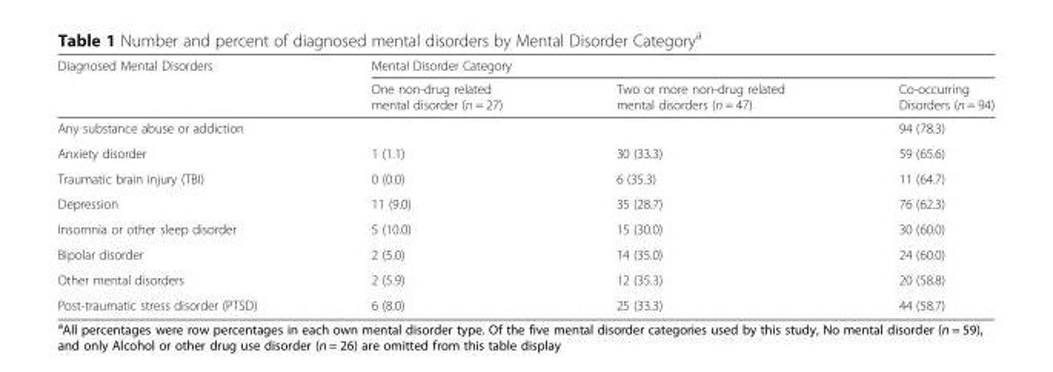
<table><thead><tr><td rowspan="2">Diagnosed Mental Disorders</td><td colspan="3">Mental Disorder Category</td></tr><tr><td>One non-drug related mental disorder (n = 27)</td><td>Two or more non-drug related mental disorders (n = 47)</td><td>Co-occurring Disorders (n = 94)</td></tr></thead><tbody><tr><td>Any substance abuse or addiction</td><td></td><td></td><td>94 (78.3)</td></tr><tr><td>Anxiety disorder</td><td>1 (1.1)</td><td>30 (33.3)</td><td>59 (65.6)</td></tr><tr><td>Traumatic brain injury (TBI)</td><td>0 (0.0)</td><td>6 (35.3)</td><td>11 (64.7)</td></tr><tr><td>Depression</td><td>11 (9.0)</td><td>35 (28.7)</td><td>76 (62.3)</td></tr><tr><td>Insomnia or other sleep disorder</td><td>5 (10.0)</td><td>15 (30.0)</td><td>30 (60.0)</td></tr><tr><td>Bipolar disorder</td><td>2 (5.0)</td><td>14 (35.0)</td><td>24 (60.0)</td></tr><tr><td>Other mental disorders</td><td>2 (5.9)</td><td>12 (35.3)</td><td>20 (58.8)</td></tr><tr><td>Post-traumatic stress disorder (PTSD)</td><td>6 (8.0)</td><td>25 (33.3)</td><td>44 (58.7)</td></tr></tbody></table>